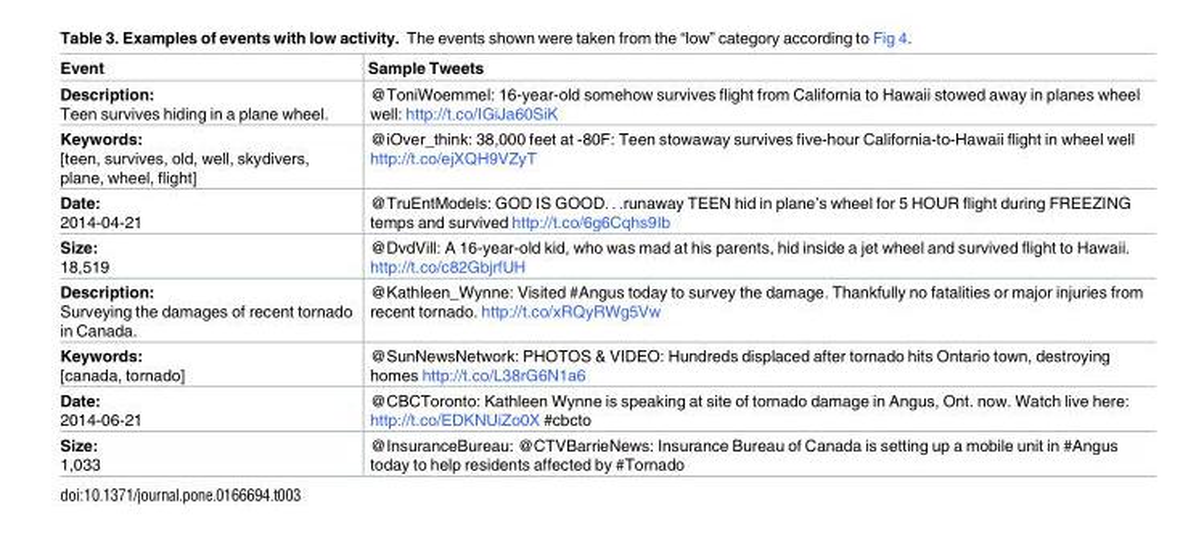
<table><thead><tr><td>Event</td><td>Sample Tweets</td></tr></thead><tbody><tr><td>Description: Teen survives hiding in a plane wheel.</td><td>@ToniWoemmel: 16-year-old somehow survives flight from California to Hawaii stowed away in planes wheel well: http://t.co/IGiJa60SiK</td></tr><tr><td>Keywords: [teen, survives, old, well, skydivers, plane, wheel, flight]</td><td>@iOver_think: 38,000 feet at -80F: Teen stowaway survives five-hour California-to-Hawaii flight in wheel well http://t.co/ejXQH9VZyT</td></tr><tr><td>Date: 2014-04-21</td><td>@TruEntModels: GOD IS GOOD. . .runaway TEEN hid in plane’s wheel for 5 HOUR flight during FREEZING temps and survived http://t.co/6g6Cqhs9Ib</td></tr><tr><td>Size: 18,519</td><td>@DvdVill: A 16-year-old kid, who was mad at his parents, hid inside a jet wheel and survived flight to Hawaii. http://t.co/c82GbjrfUH</td></tr><tr><td>Description: Surveying the damages of recent tornado in Canada.</td><td>@Kathleen_Wynne: Visited #Angus today to survey the damage. Thankfully no fatalities or major injuries from recent tornado. http://t.co/xRQyRWg5Vw</td></tr><tr><td>Keywords: [canada, tornado]</td><td>@SunNewsNetwork: PHOTOS &amp; VIDEO: Hundreds displaced after tornado hits Ontario town, destroying homes http://t.co/L38rG6N1a6</td></tr><tr><td>Date: 2014-06-21</td><td>@CBCToronto: Kathleen Wynne is speaking at site of tornado damage in Angus, Ont. now. Watch live here: http://t.co/EDKNUiZo0X #cbcto</td></tr><tr><td>Size: 1,033</td><td>@InsuranceBureau: @CTVBarrieNews: Insurance Bureau of Canada is setting up a mobile unit in #Angus today to help residents affected by #Tornado</td></tr></tbody></table>